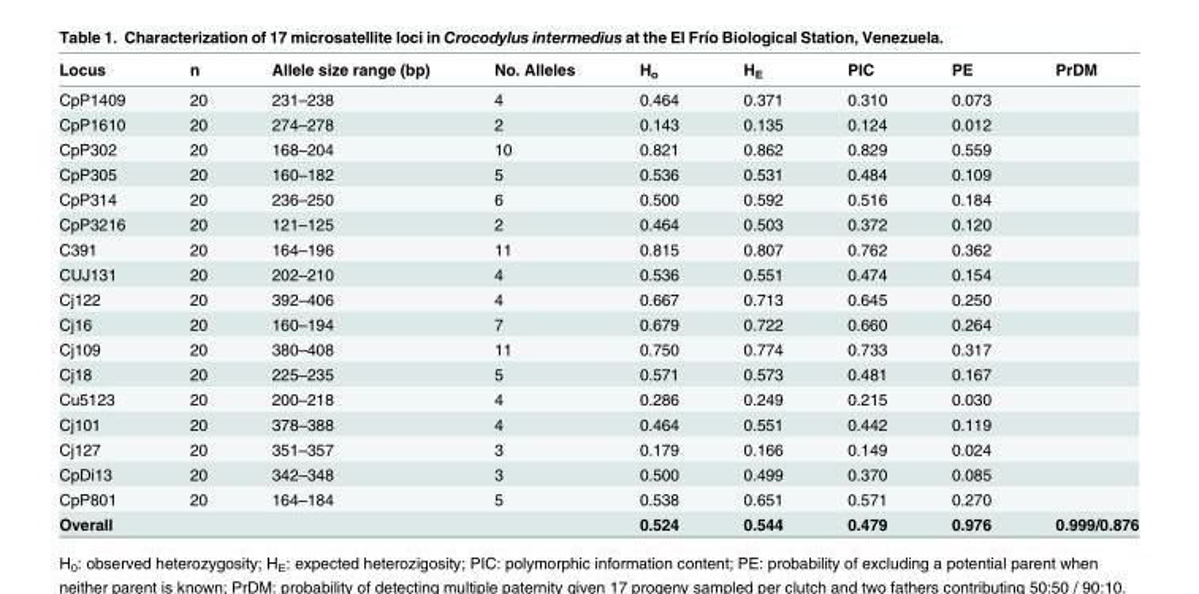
<table><thead><tr><td>Locus</td><td>n</td><td>Allele size range (bp)</td><td>No. Alleles</td><td>H<sub>o</sub></td><td>H<sub>E</sub></td><td>PIC</td><td>PE</td><td>PrDM</td></tr></thead><tbody><tr><td>CpP1409</td><td>20</td><td>231–238</td><td>4</td><td>0.464</td><td>0.371</td><td>0.310</td><td>0.073</td><td></td></tr><tr><td>CpP1610</td><td>20</td><td>274–278</td><td>2</td><td>0.143</td><td>0.135</td><td>0.124</td><td>0.012</td><td></td></tr><tr><td>CpP302</td><td>20</td><td>168–204</td><td>10</td><td>0.821</td><td>0.862</td><td>0.829</td><td>0.559</td><td></td></tr><tr><td>CpP305</td><td>20</td><td>160–182</td><td>5</td><td>0.536</td><td>0.531</td><td>0.484</td><td>0.109</td><td></td></tr><tr><td>CpP314</td><td>20</td><td>236–250</td><td>6</td><td>0.500</td><td>0.592</td><td>0.516</td><td>0.184</td><td></td></tr><tr><td>CpP3216</td><td>20</td><td>121–125</td><td>2</td><td>0.464</td><td>0.503</td><td>0.372</td><td>0.120</td><td></td></tr><tr><td>C391</td><td>20</td><td>164–196</td><td>11</td><td>0.815</td><td>0.807</td><td>0.762</td><td>0.362</td><td></td></tr><tr><td>CUJ131</td><td>20</td><td>202–210</td><td>4</td><td>0.536</td><td>0.551</td><td>0.474</td><td>0.154</td><td></td></tr><tr><td>Cj122</td><td>20</td><td>392–406</td><td>4</td><td>0.667</td><td>0.713</td><td>0.645</td><td>0.250</td><td></td></tr><tr><td>Cj16</td><td>20</td><td>160–194</td><td>7</td><td>0.679</td><td>0.722</td><td>0.660</td><td>0.264</td><td></td></tr><tr><td>Cj109</td><td>20</td><td>380–408</td><td>11</td><td>0.750</td><td>0.774</td><td>0.733</td><td>0.317</td><td></td></tr><tr><td>Cj18</td><td>20</td><td>225–235</td><td>5</td><td>0.571</td><td>0.573</td><td>0.481</td><td>0.167</td><td></td></tr><tr><td>Cu5123</td><td>20</td><td>200–218</td><td>4</td><td>0.286</td><td>0.249</td><td>0.215</td><td>0.030</td><td></td></tr><tr><td>Cj101</td><td>20</td><td>378–388</td><td>4</td><td>0.464</td><td>0.551</td><td>0.442</td><td>0.119</td><td></td></tr><tr><td>Cj127</td><td>20</td><td>351–357</td><td>3</td><td>0.179</td><td>0.166</td><td>0.149</td><td>0.024</td><td></td></tr><tr><td>CpDi13</td><td>20</td><td>342–348</td><td>3</td><td>0.500</td><td>0.499</td><td>0.370</td><td>0.085</td><td></td></tr><tr><td>CpP801</td><td>20</td><td>164–184</td><td>5</td><td>0.538</td><td>0.651</td><td>0.571</td><td>0.270</td><td></td></tr><tr><td>Overall</td><td></td><td></td><td></td><td>0.524</td><td>0.544</td><td>0.479</td><td>0.976</td><td>0.999/0.876</td></tr></tbody></table>